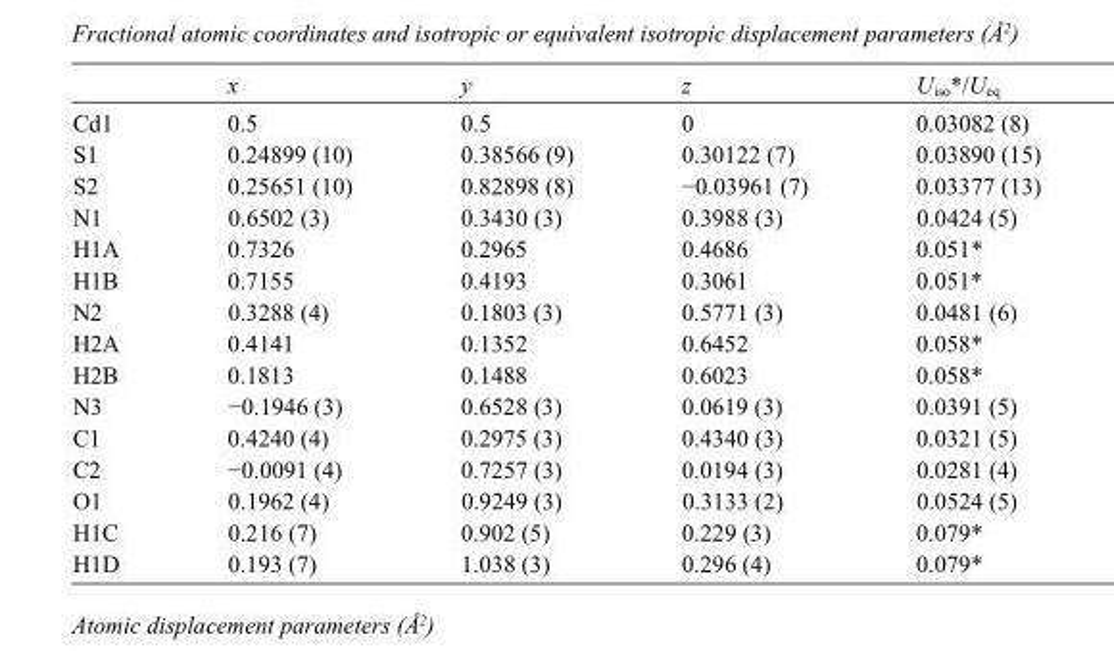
<table><thead><tr><td></td><td>x</td><td>y</td><td>z</td><td>U<sub>iso</sub>*/U<sub>eq</sub></td></tr></thead><tbody><tr><td>Cd1</td><td>0.5</td><td>0.5</td><td>0</td><td>0.03082 (8)</td></tr><tr><td>S1</td><td>0.24899 (10)</td><td>0.38566 (9)</td><td>0.30122 (7)</td><td>0.03890 (15)</td></tr><tr><td>S2</td><td>0.25651 (10)</td><td>0.82898 (8)</td><td>−0.03961 (7)</td><td>0.03377 (13)</td></tr><tr><td>N1</td><td>0.6502 (3)</td><td>0.3430 (3)</td><td>0.3988 (3)</td><td>0.0424 (5)</td></tr><tr><td>H1A</td><td>0.7326</td><td>0.2965</td><td>0.4686</td><td>0.051*</td></tr><tr><td>H1B</td><td>0.7155</td><td>0.4193</td><td>0.3061</td><td>0.051*</td></tr><tr><td>N2</td><td>0.3288 (4)</td><td>0.1803 (3)</td><td>0.5771 (3)</td><td>0.0481 (6)</td></tr><tr><td>H2A</td><td>0.4141</td><td>0.1352</td><td>0.6452</td><td>0.058*</td></tr><tr><td>H2B</td><td>0.1813</td><td>0.1488</td><td>0.6023</td><td>0.058*</td></tr><tr><td>N3</td><td>−0.1946 (3)</td><td>0.6528 (3)</td><td>0.0619 (3)</td><td>0.0391 (5)</td></tr><tr><td>C1</td><td>0.4240 (4)</td><td>0.2975 (3)</td><td>0.4340 (3)</td><td>0.0321 (5)</td></tr><tr><td>C2</td><td>−0.0091 (4)</td><td>0.7257 (3)</td><td>0.0194 (3)</td><td>0.0281 (4)</td></tr><tr><td>O1</td><td>0.1962 (4)</td><td>0.9249 (3)</td><td>0.3133 (2)</td><td>0.0524 (5)</td></tr><tr><td>H1C</td><td>0.216 (7)</td><td>0.902 (5)</td><td>0.229 (3)</td><td>0.079*</td></tr><tr><td>H1D</td><td>0.193 (7)</td><td>1.038 (3)</td><td>0.296 (4)</td><td>0.079*</td></tr></tbody></table>